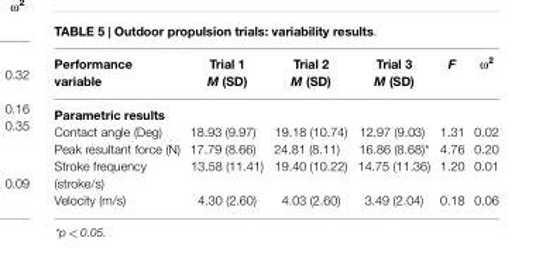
<table><thead><tr><td>Performance variable</td><td>Trial 1 M (SD)</td><td>Trial 2 M (SD)</td><td>Trial 3 M (SD)</td><td>F</td><td>ω<sup>2</sup></td></tr></thead><tbody><tr><td colspan="6">Parametric results</td></tr><tr><td>Contact angle (Deg)</td><td>18.93 (9.97)</td><td>19.18 (10.74)</td><td>12.97 (9.03)</td><td>1.31</td><td>0.02</td></tr><tr><td>Peak resultant force (N)</td><td>17.79 (8.66)</td><td>24.81 (8.11)</td><td>16.86 (8.68)*</td><td>4.76</td><td>0.20</td></tr><tr><td>Stroke frequency (stroke/s)</td><td>13.58 (11.41)</td><td>19.40 (10.22)</td><td>14.75 (11.36)</td><td>1.20</td><td>0.01</td></tr><tr><td>Velocity (m/s)</td><td>4.30 (2.60)</td><td>4.03 (2.60)</td><td>3.49 (2.04)</td><td>0.18</td><td>0.06</td></tr></tbody></table>